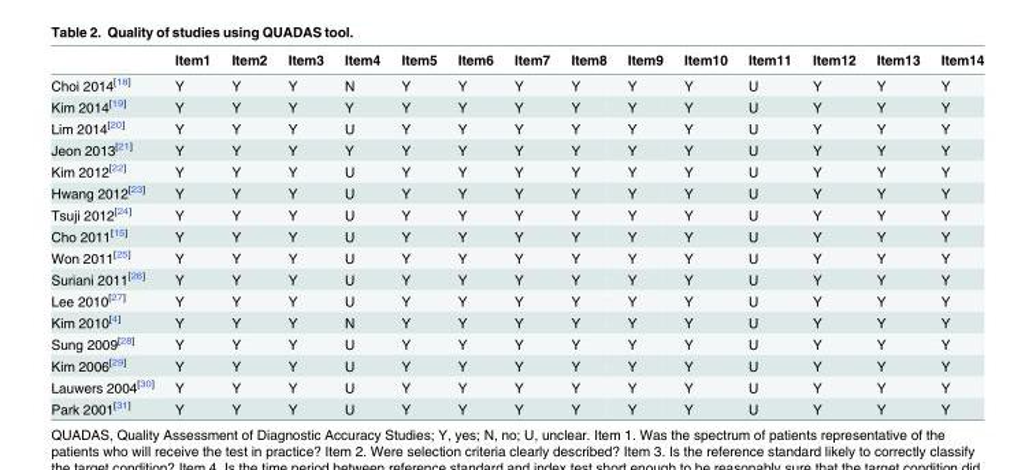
<table><thead><tr><td></td><td>Item1</td><td>Item2</td><td>Item3</td><td>Item4</td><td>Item5</td><td>Item6</td><td>Item7</td><td>Item8</td><td>Item9</td><td>Item10</td><td>Item11</td><td>Item12</td><td>Item13</td><td>Item14</td></tr></thead><tbody><tr><td>Choi 2014<sup>[18]</sup></td><td>Y</td><td>Y</td><td>Y</td><td>N</td><td>Y</td><td>Y</td><td>Y</td><td>Y</td><td>Y</td><td>Y</td><td>U</td><td>Y</td><td>Y</td><td>Y</td></tr><tr><td>Kim 2014<sup>[19]</sup></td><td>Y</td><td>Y</td><td>Y</td><td>Y</td><td>Y</td><td>Y</td><td>Y</td><td>Y</td><td>Y</td><td>Y</td><td>U</td><td>Y</td><td>Y</td><td>Y</td></tr><tr><td>Lim 2014<sup>[20]</sup></td><td>Y</td><td>Y</td><td>Y</td><td>U</td><td>Y</td><td>Y</td><td>Y</td><td>Y</td><td>Y</td><td>Y</td><td>U</td><td>Y</td><td>Y</td><td>Y</td></tr><tr><td>Jeon 2013<sup>[21]</sup></td><td>Y</td><td>Y</td><td>Y</td><td>Y</td><td>Y</td><td>Y</td><td>Y</td><td>Y</td><td>Y</td><td>Y</td><td>U</td><td>Y</td><td>Y</td><td>Y</td></tr><tr><td>Kim 2012<sup>[22]</sup></td><td>Y</td><td>Y</td><td>Y</td><td>U</td><td>Y</td><td>Y</td><td>Y</td><td>Y</td><td>Y</td><td>Y</td><td>U</td><td>Y</td><td>Y</td><td>Y</td></tr><tr><td>Hwang 2012<sup>[23]</sup></td><td>Y</td><td>Y</td><td>Y</td><td>U</td><td>Y</td><td>Y</td><td>Y</td><td>Y</td><td>Y</td><td>Y</td><td>U</td><td>Y</td><td>Y</td><td>Y</td></tr><tr><td>Tsuji 2012<sup>[24]</sup></td><td>Y</td><td>Y</td><td>Y</td><td>U</td><td>Y</td><td>Y</td><td>Y</td><td>Y</td><td>Y</td><td>Y</td><td>U</td><td>Y</td><td>Y</td><td>Y</td></tr><tr><td>Cho 2011<sup>[15]</sup></td><td>Y</td><td>Y</td><td>Y</td><td>U</td><td>Y</td><td>Y</td><td>Y</td><td>Y</td><td>Y</td><td>Y</td><td>U</td><td>Y</td><td>Y</td><td>Y</td></tr><tr><td>Won 2011<sup>[25]</sup></td><td>Y</td><td>Y</td><td>Y</td><td>U</td><td>Y</td><td>Y</td><td>Y</td><td>Y</td><td>Y</td><td>Y</td><td>U</td><td>Y</td><td>Y</td><td>Y</td></tr><tr><td>Suriani 2011<sup>[26]</sup></td><td>Y</td><td>Y</td><td>Y</td><td>U</td><td>Y</td><td>Y</td><td>Y</td><td>Y</td><td>Y</td><td>Y</td><td>U</td><td>Y</td><td>Y</td><td>Y</td></tr><tr><td>Lee 2010<sup>[27]</sup></td><td>Y</td><td>Y</td><td>Y</td><td>U</td><td>Y</td><td>Y</td><td>Y</td><td>Y</td><td>Y</td><td>Y</td><td>U</td><td>Y</td><td>Y</td><td>Y</td></tr><tr><td>Kim 2010<sup>[4]</sup></td><td>Y</td><td>Y</td><td>Y</td><td>N</td><td>Y</td><td>Y</td><td>Y</td><td>Y</td><td>Y</td><td>Y</td><td>U</td><td>Y</td><td>Y</td><td>Y</td></tr><tr><td>Sung 2009<sup>[28]</sup></td><td>Y</td><td>Y</td><td>Y</td><td>U</td><td>Y</td><td>Y</td><td>Y</td><td>Y</td><td>Y</td><td>Y</td><td>U</td><td>Y</td><td>Y</td><td>Y</td></tr><tr><td>Kim 2006<sup>[29]</sup></td><td>Y</td><td>Y</td><td>Y</td><td>U</td><td>Y</td><td>Y</td><td>Y</td><td>Y</td><td>Y</td><td>Y</td><td>U</td><td>Y</td><td>Y</td><td>Y</td></tr><tr><td>Lauwers 2004<sup>[30]</sup></td><td>Y</td><td>Y</td><td>Y</td><td>U</td><td>Y</td><td>Y</td><td>Y</td><td>Y</td><td>Y</td><td>Y</td><td>U</td><td>Y</td><td>Y</td><td>Y</td></tr><tr><td>Park 2001<sup>[31]</sup></td><td>Y</td><td>Y</td><td>Y</td><td>U</td><td>Y</td><td>Y</td><td>Y</td><td>Y</td><td>Y</td><td>Y</td><td>U</td><td>Y</td><td>Y</td><td>Y</td></tr></tbody></table>